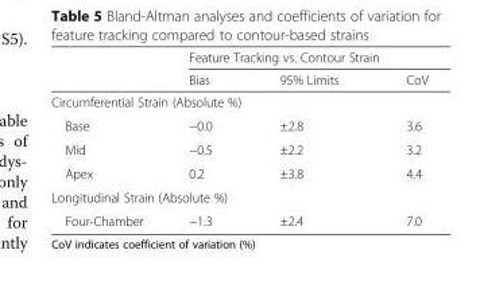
<table><thead><tr><td rowspan="2"></td><td colspan="3">Feature Tracking vs. Contour Strain</td></tr><tr><td>Bias</td><td>95% Limits</td><td>CoV</td></tr></thead><tbody><tr><td colspan="4">Circumferential Strain (Absolute %)</td></tr><tr><td>Base</td><td>−0.0</td><td>±2.8</td><td>3.6</td></tr><tr><td>Mid</td><td>−0.5</td><td>±2.2</td><td>3.2</td></tr><tr><td>Apex</td><td>0.2</td><td>±3.8</td><td>4.4</td></tr><tr><td colspan="4">Longitudinal Strain (Absolute %)</td></tr><tr><td>Four-Chamber</td><td>−1.3</td><td>±2.4</td><td>7.0</td></tr></tbody></table>